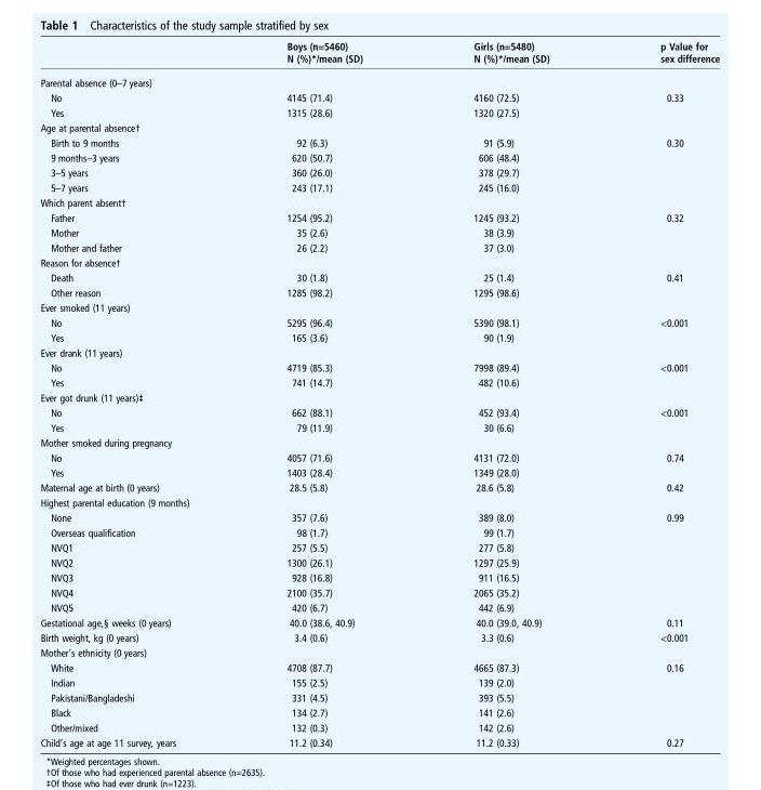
<table><thead><tr><td></td><td>Boys (n=5460) N (%)*/mean (SD)</td><td>Girls (n=5480) N (%)*/mean (SD)</td><td>p Value for sex difference</td></tr></thead><tbody><tr><td colspan="4">Parental absence (0–7 years)</td></tr><tr><td>No</td><td>4145 (71.4)</td><td>4160 (72.5)</td><td>0.33</td></tr><tr><td>Yes</td><td>1315 (28.6)</td><td>1320 (27.5)</td><td></td></tr><tr><td colspan="4">Age at parental absence†</td></tr><tr><td>Birth to 9 months</td><td>92 (6.3)</td><td>91 (5.9)</td><td>0.30</td></tr><tr><td>9 months–3 years</td><td>620 (50.7)</td><td>606 (48.4)</td><td></td></tr><tr><td>3–5 years</td><td>360 (26.0)</td><td>378 (29.7)</td><td></td></tr><tr><td>5–7 years</td><td>243 (17.1)</td><td>245 (16.0)</td><td></td></tr><tr><td colspan="4">Which parent absent†</td></tr><tr><td>Father</td><td>1254 (95.2)</td><td>1245 (93.2)</td><td>0.32</td></tr><tr><td>Mother</td><td>35 (2.6)</td><td>38 (3.9)</td><td></td></tr><tr><td>Mother and father</td><td>26 (2.2)</td><td>37 (3.0)</td><td></td></tr><tr><td colspan="4">Reason for absence†</td></tr><tr><td>Death</td><td>30 (1.8)</td><td>25 (1.4)</td><td>0.41</td></tr><tr><td>Other reason</td><td>1285 (98.2)</td><td>1295 (98.6)</td><td></td></tr><tr><td colspan="4">Ever smoked (11 years)</td></tr><tr><td>No</td><td>5295 (96.4)</td><td>5390 (98.1)</td><td>&lt;0.001</td></tr><tr><td>Yes</td><td>165 (3.6)</td><td>90 (1.9)</td><td></td></tr><tr><td colspan="4">Ever drank (11 years)</td></tr><tr><td>No</td><td>4719 (85.3)</td><td>7998 (89.4)</td><td>&lt;0.001</td></tr><tr><td>Yes</td><td>741 (14.7)</td><td>482 (10.6)</td><td></td></tr><tr><td colspan="4">Ever got drunk (11 years)‡</td></tr><tr><td>No</td><td>662 (88.1)</td><td>452 (93.4)</td><td>&lt;0.001</td></tr><tr><td>Yes</td><td>79 (11.9)</td><td>30 (6.6)</td><td></td></tr><tr><td colspan="4">Mother smoked during pregnancy</td></tr><tr><td>No</td><td>4057 (71.6)</td><td>4131 (72.0)</td><td>0.74</td></tr><tr><td>Yes</td><td>1403 (28.4)</td><td>1349 (28.0)</td><td></td></tr><tr><td>Maternal age at birth (0 years)</td><td>28.5 (5.8)</td><td>28.6 (5.8)</td><td>0.42</td></tr><tr><td colspan="4">Highest parental education (9 months)</td></tr><tr><td>None</td><td>357 (7.6)</td><td>389 (8.0)</td><td>0.99</td></tr><tr><td>Overseas qualification</td><td>98 (1.7)</td><td>99 (1.7)</td><td></td></tr><tr><td>NVQ1</td><td>257 (5.5)</td><td>277 (5.8)</td><td></td></tr><tr><td>NVQ2</td><td>1300 (26.1)</td><td>1297 (25.9)</td><td></td></tr><tr><td>NVQ3</td><td>928 (16.8)</td><td>911 (16.5)</td><td></td></tr><tr><td>NVQ4</td><td>2100 (35.7)</td><td>2065 (35.2)</td><td></td></tr><tr><td>NVQ5</td><td>420 (6.7)</td><td>442 (6.9)</td><td></td></tr><tr><td>Gestational age,§ weeks (0 years)</td><td>40.0 (38.6, 40.9)</td><td>40.0 (39.0, 40.9)</td><td>0.11</td></tr><tr><td>Birth weight, kg (0 years)</td><td>3.4 (0.6)</td><td>3.3 (0.6)</td><td>&lt;0.001</td></tr><tr><td colspan="4">Mother’s ethnicity (0 years)</td></tr><tr><td>White</td><td>4708 (87.7)</td><td>4665 (87.3)</td><td>0.16</td></tr><tr><td>Indian</td><td>155 (2.5)</td><td>139 (2.0)</td><td></td></tr><tr><td>Pakistani/Bangladeshi</td><td>331 (4.5)</td><td>393 (5.5)</td><td></td></tr><tr><td>Black</td><td>134 (2.7)</td><td>141 (2.6)</td><td></td></tr><tr><td>Other/mixed</td><td>132 (0.3)</td><td>142 (2.6)</td><td></td></tr><tr><td>Child’s age at age 11 survey, years</td><td>11.2 (0.34)</td><td>11.2 (0.33)</td><td>0.27</td></tr></tbody></table>